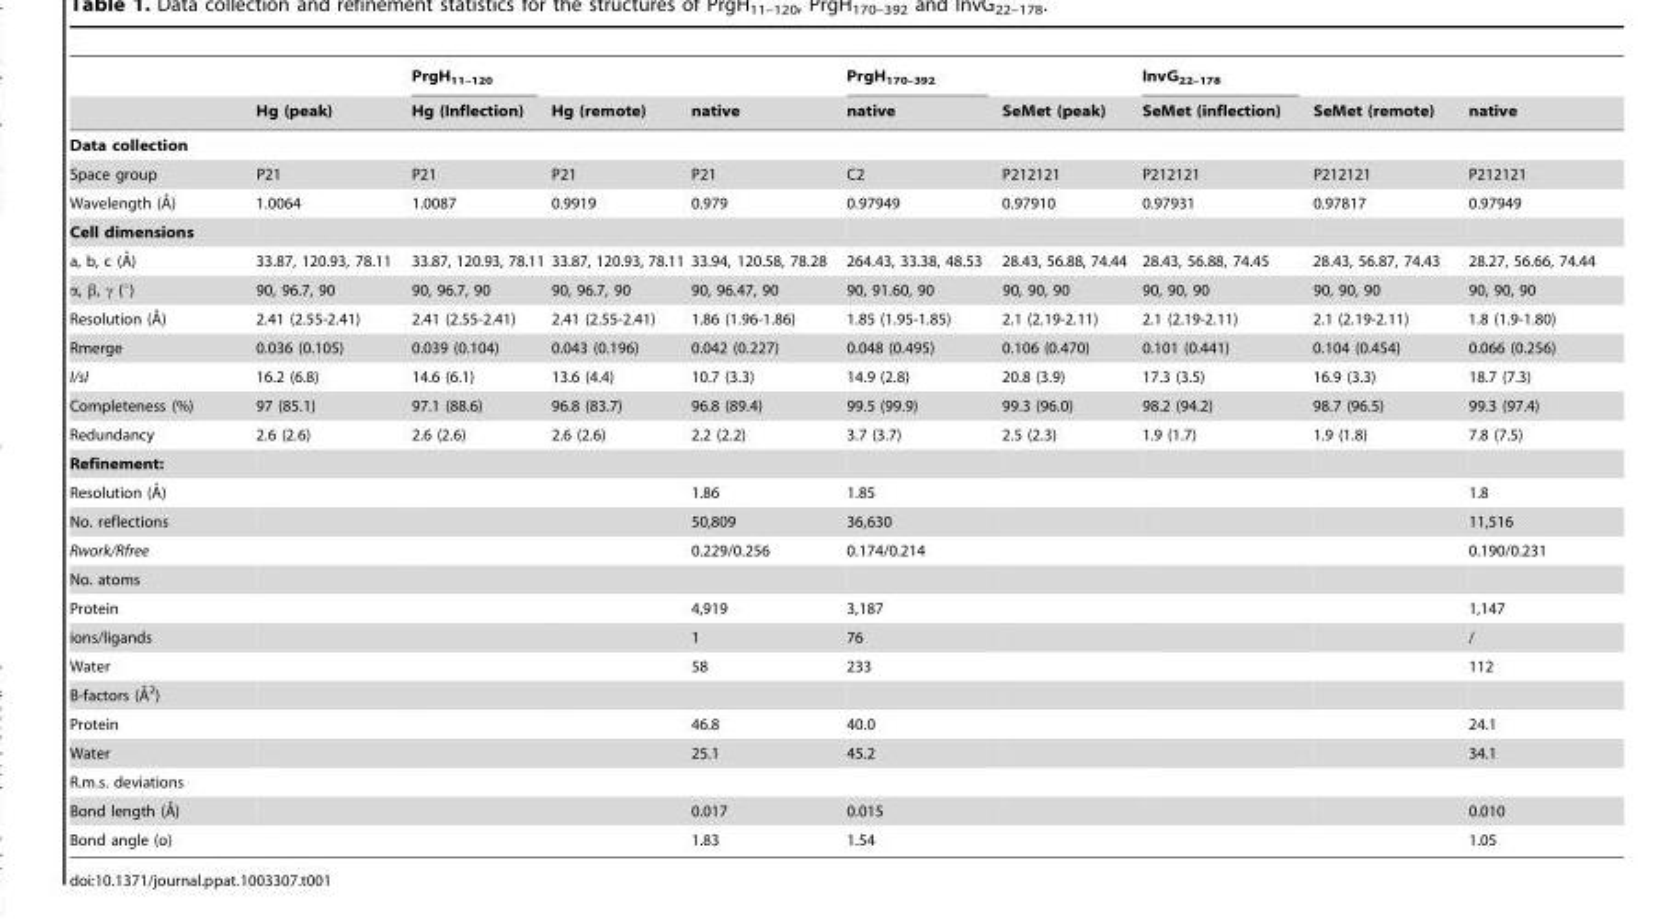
<table><thead><tr><td rowspan="2"></td><td rowspan="2">Hg (peak)</td><td rowspan="2">PrgH<sub>11–120</sub> Hg (Inflection)</td><td rowspan="2">Hg (remote)</td><td rowspan="2">native</td><td rowspan="2">PrgH<sub>170–392</sub> native</td><td rowspan="2">SeMet (peak)</td><td rowspan="2">InvG<sub>22–178</sub> SeMet (inflection)</td><td rowspan="2">SeMet (remote)</td><td rowspan="2">native</td></tr><tr></tr></thead><tbody><tr><td colspan="10">Data collection</td></tr><tr><td>Space group</td><td>P21</td><td>P21</td><td>P21</td><td>P21</td><td>C2</td><td>P212121</td><td>P212121</td><td>P212121</td><td>P212121</td></tr><tr><td>Wavelength (A˚)</td><td>1.0064</td><td>1.0087</td><td>0.9919</td><td>0.979</td><td>0.97949</td><td>0.97910</td><td>0.97931</td><td>0.97817</td><td>0.97949</td></tr><tr><td colspan="10">Cell dimensions</td></tr><tr><td>a, b, c (A˚)</td><td>33.87, 120.93, 78.11</td><td>33.87, 120.93, 78.11</td><td>33.87, 120.93, 78.11</td><td>33.94, 120.58, 78.28</td><td>264.43, 33.38, 48.53</td><td>28.43, 56.88, 74.44</td><td>28.43, 56.88, 74.45</td><td>28.43, 56.87, 74.43</td><td>28.27, 56.66, 74.44</td></tr><tr><td>α, β, γ (°)</td><td>90, 96.7, 90</td><td>90, 96.7, 90</td><td>90, 96.7, 90</td><td>90, 96.47, 90</td><td>90, 91.60, 90</td><td>90, 90, 90</td><td>90, 90, 90</td><td>90, 90, 90</td><td>90, 90, 90</td></tr><tr><td>Resolution (A˚)</td><td>2.41 (2.55-2.41)</td><td>2.41 (2.55-2.41)</td><td>2.41 (2.55-2.41)</td><td>1.86 (1.96-1.86)</td><td>1.85 (1.95-1.85)</td><td>2.1 (2.19-2.11)</td><td>2.1 (2.19-2.11)</td><td>2.1 (2.19-2.11)</td><td>1.8 (1.9-1.80)</td></tr><tr><td>Rmerge</td><td>0.036 (0.105)</td><td>0.039 (0.104)</td><td>0.043 (0.196)</td><td>0.042 (0.227)</td><td>0.048 (0.495)</td><td>0.106 (0.470)</td><td>0.101 (0.441)</td><td>0.104 (0.454)</td><td>0.066 (0.256)</td></tr><tr><td>I/sI</td><td>16.2 (6.8)</td><td>14.6 (6.1)</td><td>13.6 (4.4)</td><td>10.7 (3.3)</td><td>14.9 (2.8)</td><td>20.8 (3.9)</td><td>17.3 (3.5)</td><td>16.9 (3.3)</td><td>18.7 (7.3)</td></tr><tr><td>Completeness (%)</td><td>97 (85.1)</td><td>97.1 (88.6)</td><td>96.8 (83.7)</td><td>96.8 (89.4)</td><td>99.5 (99.9)</td><td>99.3 (96.0)</td><td>98.2 (94.2)</td><td>98.7 (96.5)</td><td>99.3 (97.4)</td></tr><tr><td>Redundancy</td><td>2.6 (2.6)</td><td>2.6 (2.6)</td><td>2.6 (2.6)</td><td>2.2 (2.2)</td><td>3.7 (3.7)</td><td>2.5 (2.3)</td><td>1.9 (1.7)</td><td>1.9 (1.8)</td><td>7.8 (7.5)</td></tr><tr><td colspan="10">Refinement:</td></tr><tr><td>Resolution (A˚)</td><td></td><td></td><td></td><td>1.86</td><td>1.85</td><td></td><td></td><td></td><td>1.8</td></tr><tr><td>No. reflections</td><td></td><td></td><td></td><td>50,809</td><td>36,630</td><td></td><td></td><td></td><td>11,516</td></tr><tr><td>Rwork/Rfree</td><td></td><td></td><td></td><td>0.229/0.256</td><td>0.174/0.214</td><td></td><td></td><td></td><td>0.190/0.231</td></tr><tr><td colspan="10">No. atoms</td></tr><tr><td>Protein</td><td></td><td></td><td></td><td>4,919</td><td>3,187</td><td></td><td></td><td></td><td>1,147</td></tr><tr><td>ions/ligands</td><td></td><td></td><td></td><td>1</td><td>76</td><td></td><td></td><td></td><td>/</td></tr><tr><td>Water</td><td></td><td></td><td></td><td>58</td><td>233</td><td></td><td></td><td></td><td>112</td></tr><tr><td colspan="10">B-factors (A˚2)</td></tr><tr><td>Protein</td><td></td><td></td><td></td><td>46.8</td><td>40.0</td><td></td><td></td><td></td><td>24.1</td></tr><tr><td>Water</td><td></td><td></td><td></td><td>25.1</td><td>45.2</td><td></td><td></td><td></td><td>34.1</td></tr><tr><td colspan="10">R.m.s. deviations</td></tr><tr><td>Bond length (A˚)</td><td></td><td></td><td></td><td>0.017</td><td>0.015</td><td></td><td></td><td></td><td>0.010</td></tr><tr><td>Bond angle (o)</td><td></td><td></td><td></td><td>1.83</td><td>1.54</td><td></td><td></td><td></td><td>1.05</td></tr></tbody></table>